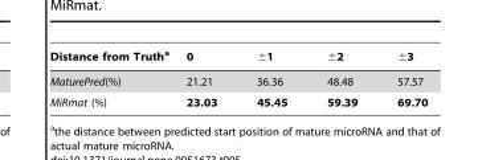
<table><thead><tr><td>Distance from Truth<sup>a</sup></td><td>0</td><td>±1</td><td>±2</td><td>±3</td></tr></thead><tbody><tr><td>MaturePred(%)</td><td>21.21</td><td>36.36</td><td>48.48</td><td>57.57</td></tr><tr><td>MiRmat (%)</td><td>23.03</td><td>45.45</td><td>59.39</td><td>69.70</td></tr></tbody></table>